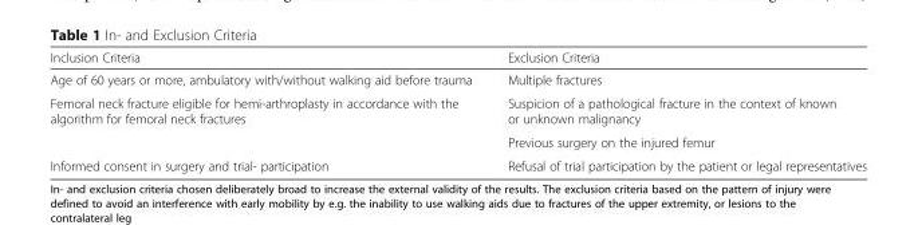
<table><thead><tr><td>Inclusion Criteria</td><td>Exclusion Criteria</td></tr></thead><tbody><tr><td>Age of 60 years or more, ambulatory with/without walking aid before trauma</td><td>Multiple fractures</td></tr><tr><td rowspan="2">Femoral neck fracture eligible for hemi-arthroplasty in accordance with the algorithm for femoral neck fractures</td><td>Suspicion of a pathological fracture in the context of known or unknown malignancy</td></tr><tr><td>Previous surgery on the injured femur</td></tr><tr><td>Informed consent in surgery and trial- participation</td><td>Refusal of trial participation by the patient or legal representatives</td></tr></tbody></table>